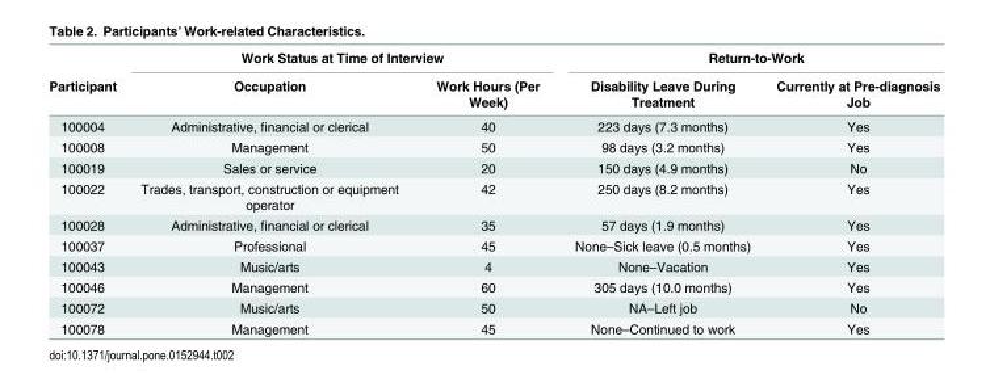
<table><thead><tr><td rowspan="2">Participant</td><td colspan="2">Work Status at Time of Interview</td><td colspan="2">Return-to-Work</td></tr><tr><td>Occupation</td><td>Work Hours (Per Week)</td><td>Disability Leave During Treatment</td><td>Currently at Pre-diagnosis Job</td></tr></thead><tbody><tr><td>100004</td><td>Administrative, financial or clerical</td><td>40</td><td>223 days (7.3 months)</td><td>Yes</td></tr><tr><td>100008</td><td>Management</td><td>50</td><td>98 days (3.2 months)</td><td>Yes</td></tr><tr><td>100019</td><td>Sales or service</td><td>20</td><td>150 days (4.9 months)</td><td>No</td></tr><tr><td>100022</td><td>Trades, transport, construction or equipment operator</td><td>42</td><td>250 days (8.2 months)</td><td>Yes</td></tr><tr><td>100028</td><td>Administrative, financial or clerical</td><td>35</td><td>57 days (1.9 months)</td><td>Yes</td></tr><tr><td>100037</td><td>Professional</td><td>45</td><td>None–Sick leave (0.5 months)</td><td>Yes</td></tr><tr><td>100043</td><td>Music/arts</td><td>4</td><td>None–Vacation</td><td>Yes</td></tr><tr><td>100046</td><td>Management</td><td>60</td><td>305 days (10.0 months)</td><td>Yes</td></tr><tr><td>100072</td><td>Music/arts</td><td>50</td><td>NA–Left job</td><td>No</td></tr><tr><td>100078</td><td>Management</td><td>45</td><td>None–Continued to work</td><td>Yes</td></tr></tbody></table>